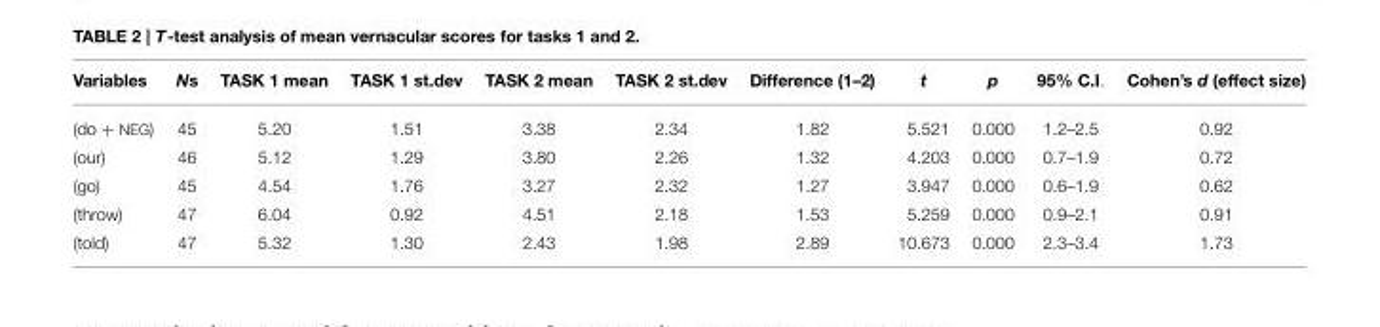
<table><thead><tr><td>Variables</td><td>Ns</td><td>TASK 1 mean</td><td>TASK 1 st.dev</td><td>TASK 2 mean</td><td>TASK 2 st.dev</td><td>Difference (1–2)</td><td>t</td><td>p</td><td>95% C.I.</td><td>Cohen’s d (effect size)</td></tr></thead><tbody><tr><td>(do + NEG)</td><td>45</td><td>5.20</td><td>1.51</td><td>3.38</td><td>2.34</td><td>1.82</td><td>5.521</td><td>0.000</td><td>1.2–2.5</td><td>0.92</td></tr><tr><td>(our)</td><td>46</td><td>5.12</td><td>1.29</td><td>3.80</td><td>2.26</td><td>1.32</td><td>4.203</td><td>0.000</td><td>0.7–1.9</td><td>0.72</td></tr><tr><td>(go)</td><td>45</td><td>4.54</td><td>1.76</td><td>3.27</td><td>2.32</td><td>1.27</td><td>3.947</td><td>0.000</td><td>0.6–1.9</td><td>0.62</td></tr><tr><td>(throw)</td><td>47</td><td>6.04</td><td>0.92</td><td>4.51</td><td>2.18</td><td>1.53</td><td>5.259</td><td>0.000</td><td>0.9–2.1</td><td>0.91</td></tr><tr><td>(told)</td><td>47</td><td>5.32</td><td>1.30</td><td>2.43</td><td>1.98</td><td>2.89</td><td>10.673</td><td>0.000</td><td>2.3–3.4</td><td>1.73</td></tr></tbody></table>